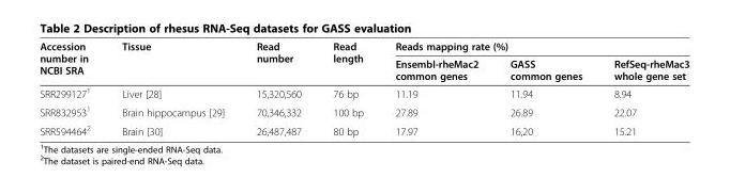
<table><thead><tr><td rowspan="2">Accession number in NCBI SRA</td><td rowspan="2">Tissue</td><td rowspan="2">Read number</td><td rowspan="2">Read length</td><td colspan="3">Reads mapping rate (%)</td></tr><tr><td>Ensembl-rheMac2 common genes</td><td>GASS common genes</td><td>RefSeq-rheMac3 whole gene set</td></tr></thead><tbody><tr><td>SRR299127<sup>1</sup></td><td>Liver [28]</td><td>15,320,560</td><td>76 bp</td><td>11.19</td><td>11.94</td><td>8.94</td></tr><tr><td>SRR832953<sup>1</sup></td><td>Brain hippocampus [29]</td><td>70,346,332</td><td>100 bp</td><td>27.89</td><td>26.89</td><td>22.07</td></tr><tr><td>SRR594464<sup>2</sup></td><td>Brain [30]</td><td>26,487,487</td><td>80 bp</td><td>17.97</td><td>16,20</td><td>15.21</td></tr></tbody></table>